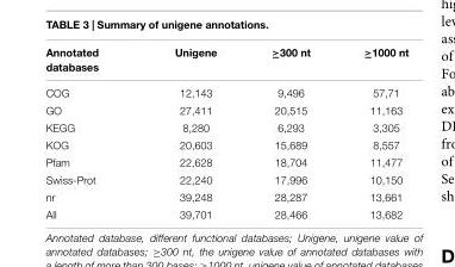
<table><thead><tr><td>Annotated databases</td><td>Unigene</td><td>≥300 nt</td><td>≥1000 nt</td></tr></thead><tbody><tr><td>COG</td><td>12,143</td><td>9,496</td><td>57,71</td></tr><tr><td>GO</td><td>27,411</td><td>20,515</td><td>11,163</td></tr><tr><td>KEGG</td><td>8,280</td><td>6,293</td><td>3,305</td></tr><tr><td>KOG</td><td>20,603</td><td>15,689</td><td>8,557</td></tr><tr><td>Pfam</td><td>22,628</td><td>18,704</td><td>11,477</td></tr><tr><td>Swiss-Prot</td><td>22,240</td><td>17,996</td><td>10,150</td></tr><tr><td>nr</td><td>39,248</td><td>28,287</td><td>13,661</td></tr><tr><td>All</td><td>39,701</td><td>28,466</td><td>13,682</td></tr></tbody></table>